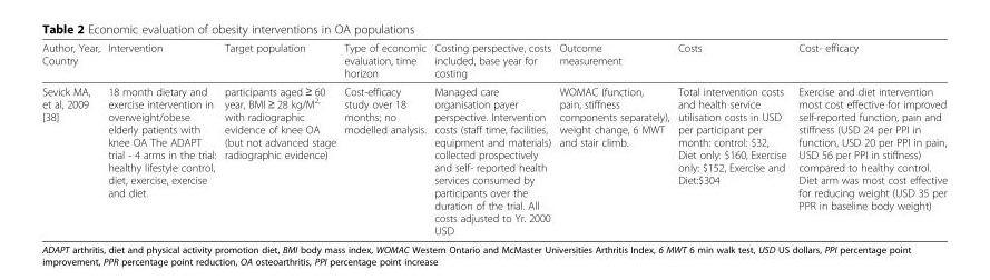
<table><thead><tr><td>Author, Year, Country</td><td>Intervention</td><td>Target population</td><td>Type of economic evaluation, time horizon</td><td>Costing perspective, costs included, base year for costing</td><td>Outcome measurement</td><td>Costs</td><td>Cost- efficacy</td></tr></thead><tbody><tr><td>Sevick MA, et al, 2009 [38]</td><td>18 month dietary and exercise intervention in overweight/obese elderly patients with knee OA The ADAPT trial - 4 arms in the trial: healthy lifestyle control, diet, exercise, exercise and diet.</td><td>participants aged ≥ 60 year, BMI ≥ 28 kg/M<sup>2,</sup> with radiographic evidence of knee OA (but not advanced stage radiographic evidence)</td><td>Cost-efficacy study over 18 months; no modelled analysis.</td><td>Managed care organisation payer perspective. Intervention costs (staff time, facilities, equipment and materials) collected prospectively and self- reported health services consumed by participants over the duration of the trial. All costs adjusted to Yr. 2000 USD</td><td>WOMAC (function, pain, stiffness components separately), weight change, 6 MWT and stair climb.</td><td>Total intervention costs and health service utilisation costs in USD per participant per month: control: $32, Diet only: $160, Exercise only: $152, Exercise and Diet:$304</td><td>Exercise and diet intervention most cost effective for improved self-reported function, pain and stiffness (USD 24 per PPI in function, USD 20 per PPI in pain, USD 56 per PPI in stiffness) compared to healthy control. Diet arm was most cost effective for reducing weight (USD 35 per PPR in baseline body weight)</td></tr></tbody></table>